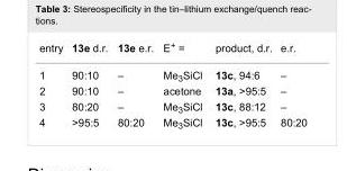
<table><tbody><tr><td>entry</td><td>13e d.r.</td><td>13e e.r.</td><td>E<sup>+</sup> =</td><td>product, d.r.</td><td>e.r.</td></tr><tr><td>1</td><td>90:10</td><td>–</td><td>Me<sub>3</sub>SiCl</td><td>13c, 94:6</td><td>–</td></tr><tr><td>2</td><td>90:10</td><td>–</td><td>acetone</td><td>13a, &gt;95:5</td><td>–</td></tr><tr><td>3</td><td>80:20</td><td>–</td><td>Me<sub>3</sub>SiCl</td><td>13c, 88:12</td><td>–</td></tr><tr><td>4</td><td>&gt;95:5</td><td>80:20</td><td>Me<sub>3</sub>SiCl</td><td>13c, &gt;95:5</td><td>80:20</td></tr></tbody></table>